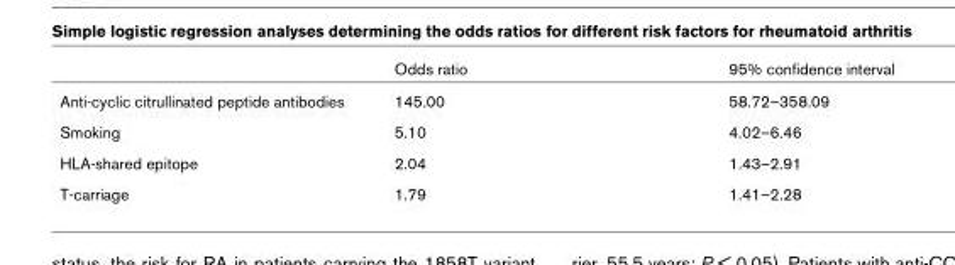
<table><thead><tr><td></td><td>Odds ratio</td><td>95% confidence interval</td></tr></thead><tbody><tr><td>Anti-cyclic citrullinated peptide antibodies</td><td>145.00</td><td>58.72–358.09</td></tr><tr><td>Smoking</td><td>5.10</td><td>4.02–6.46</td></tr><tr><td>HLA-shared epitope</td><td>2.04</td><td>1.43–2.91</td></tr><tr><td>T-carriage</td><td>1.79</td><td>1.41–2.28</td></tr></tbody></table>